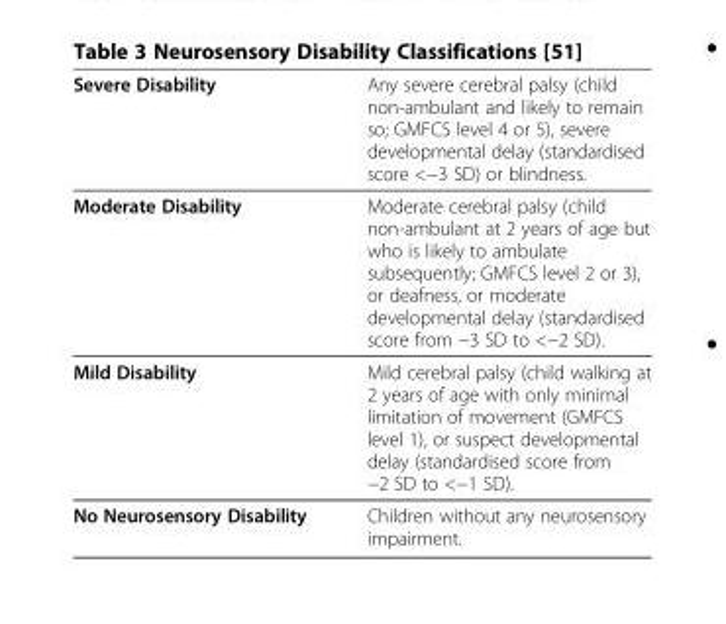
<table><thead><tr><td>Severe Disability</td><td>Any severe cerebral palsy (child non-ambulant and likely to remain so; GMFCS level 4 or 5), severe developmental delay (standardised score &lt;−3 SD) or blindness.</td></tr></thead><tbody><tr><td>Moderate Disability</td><td>Moderate cerebral palsy (child non-ambulant at 2 years of age but who is likely to ambulate subsequently; GMFCS level 2 or 3), or deafness, or moderate developmental delay (standardised score from −3 SD to &lt;−2 SD).</td></tr><tr><td>Mild Disability</td><td>Mild cerebral palsy (child walking at 2 years of age with only minimal limitation of movement (GMFCS level 1), or suspect developmental delay (standardised score from −2 SD to &lt;−1 SD).</td></tr><tr><td>No Neurosensory Disability</td><td>Children without any neurosensory impairment.</td></tr></tbody></table>